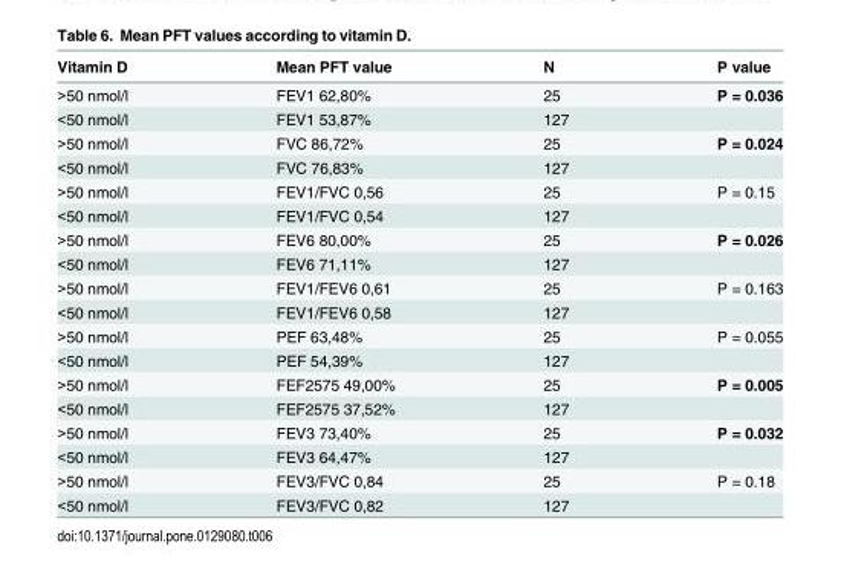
<table><thead><tr><td>Vitamin D</td><td>Mean PFT value</td><td>N</td><td>P value</td></tr></thead><tbody><tr><td>&gt;50 nmol/l</td><td>FEV1 62,80%</td><td>25</td><td>P = 0.036</td></tr><tr><td>&lt;50 nmol/l</td><td>FEV1 53,87%</td><td>127</td><td></td></tr><tr><td>&gt;50 nmol/l</td><td>FVC 86,72%</td><td>25</td><td>P = 0.024</td></tr><tr><td>&lt;50 nmol/l</td><td>FVC 76,83%</td><td>127</td><td></td></tr><tr><td>&gt;50 nmol/l</td><td>FEV1/FVC 0,56</td><td>25</td><td>P = 0.15</td></tr><tr><td>&lt;50 nmol/l</td><td>FEV1/FVC 0,54</td><td>127</td><td></td></tr><tr><td>&gt;50 nmol/l</td><td>FEV6 80,00%</td><td>25</td><td>P = 0.026</td></tr><tr><td>&lt;50 nmol/l</td><td>FEV6 71,11%</td><td>127</td><td></td></tr><tr><td>&gt;50 nmol/l</td><td>FEV1/FEV6 0,61</td><td>25</td><td>P = 0.163</td></tr><tr><td>&lt;50 nmol/l</td><td>FEV1/FEV6 0,58</td><td>127</td><td></td></tr><tr><td>&gt;50 nmol/l</td><td>PEF 63,48%</td><td>25</td><td>P = 0.055</td></tr><tr><td>&lt;50 nmol/l</td><td>PEF 54,39%</td><td>127</td><td></td></tr><tr><td>&gt;50 nmol/l</td><td>FEF2575 49,00%</td><td>25</td><td>P = 0.005</td></tr><tr><td>&lt;50 nmol/l</td><td>FEF2575 37,52%</td><td>127</td><td></td></tr><tr><td>&gt;50 nmol/l</td><td>FEV3 73,40%</td><td>25</td><td>P = 0.032</td></tr><tr><td>&lt;50 nmol/l</td><td>FEV3 64,47%</td><td>127</td><td></td></tr><tr><td>&gt;50 nmol/l</td><td>FEV3/FVC 0,84</td><td>25</td><td>P = 0.18</td></tr><tr><td>&lt;50 nmol/l</td><td>FEV3/FVC 0,82</td><td>127</td><td></td></tr></tbody></table>